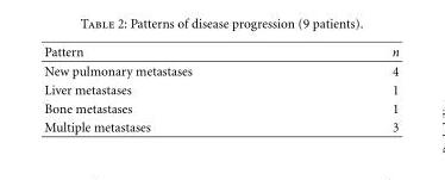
<table><thead><tr><td>Pattern</td><td>n</td></tr></thead><tbody><tr><td>New pulmonary metastases</td><td>4</td></tr><tr><td>Liver metastases</td><td>1</td></tr><tr><td>Bone metastases</td><td>1</td></tr><tr><td>Multiple metastases</td><td>3</td></tr></tbody></table>